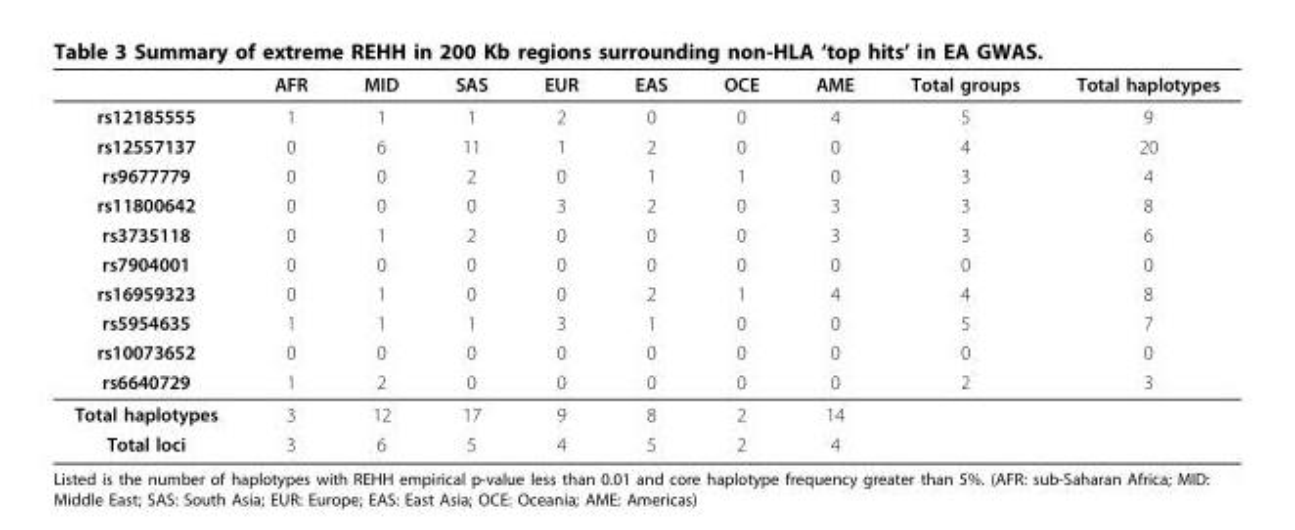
<table><thead><tr><td></td><td>AFR</td><td>MID</td><td>SAS</td><td>EUR</td><td>EAS</td><td>OCE</td><td>AME</td><td>Total groups</td><td>Total haplotypes</td></tr></thead><tbody><tr><td>rs12185555</td><td>1</td><td>1</td><td>1</td><td>2</td><td>0</td><td>0</td><td>4</td><td>5</td><td>9</td></tr><tr><td>rs12557137</td><td>0</td><td>6</td><td>11</td><td>1</td><td>2</td><td>0</td><td>0</td><td>4</td><td>20</td></tr><tr><td>rs9677779</td><td>0</td><td>0</td><td>2</td><td>0</td><td>1</td><td>1</td><td>0</td><td>3</td><td>4</td></tr><tr><td>rs11800642</td><td>0</td><td>0</td><td>0</td><td>3</td><td>2</td><td>0</td><td>3</td><td>3</td><td>8</td></tr><tr><td>rs3735118</td><td>0</td><td>1</td><td>2</td><td>0</td><td>0</td><td>0</td><td>3</td><td>3</td><td>6</td></tr><tr><td>rs7904001</td><td>0</td><td>0</td><td>0</td><td>0</td><td>0</td><td>0</td><td>0</td><td>0</td><td>0</td></tr><tr><td>rs16959323</td><td>0</td><td>1</td><td>0</td><td>0</td><td>2</td><td>1</td><td>4</td><td>4</td><td>8</td></tr><tr><td>rs5954635</td><td>1</td><td>1</td><td>1</td><td>3</td><td>1</td><td>0</td><td>0</td><td>5</td><td>7</td></tr><tr><td>rs10073652</td><td>0</td><td>0</td><td>0</td><td>0</td><td>0</td><td>0</td><td>0</td><td>0</td><td>0</td></tr><tr><td>rs6640729</td><td>1</td><td>2</td><td>0</td><td>0</td><td>0</td><td>0</td><td>0</td><td>2</td><td>3</td></tr><tr><td>Total haplotypes</td><td>3</td><td>12</td><td>17</td><td>9</td><td>8</td><td>2</td><td>14</td><td></td><td></td></tr><tr><td>Total loci</td><td>3</td><td>6</td><td>5</td><td>4</td><td>5</td><td>2</td><td>4</td><td></td><td></td></tr></tbody></table>